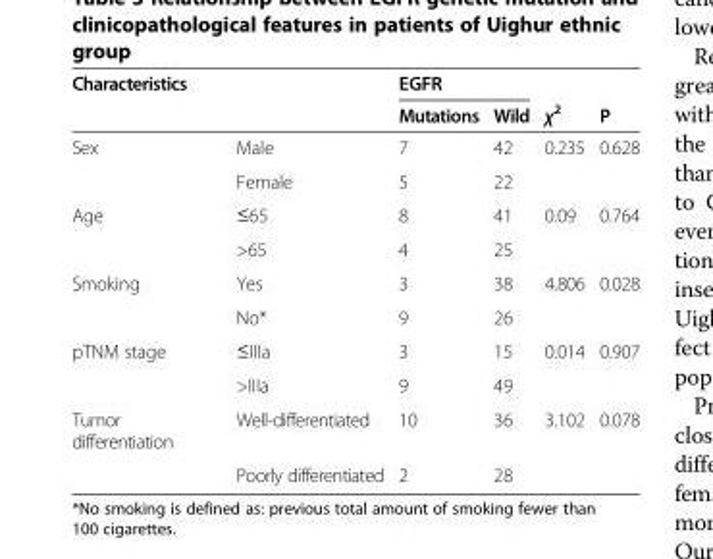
<table><thead><tr><td rowspan="2">Characteristics</td><td rowspan="2"></td><td colspan="2">EGFR</td><td rowspan="2">χ<sup>2</sup></td><td rowspan="2">P</td></tr><tr><td>Mutations</td><td>Wild</td></tr></thead><tbody><tr><td rowspan="2">Sex</td><td>Male</td><td>7</td><td>42</td><td rowspan="2">0.235</td><td>0.628</td></tr><tr><td>Female</td><td>5</td><td>22</td><td></td></tr><tr><td rowspan="2">Age</td><td>≤65</td><td>8</td><td>41</td><td rowspan="2">0.09</td><td>0.764</td></tr><tr><td>&gt;65</td><td>4</td><td>25</td><td></td></tr><tr><td rowspan="2">Smoking</td><td>Yes</td><td>3</td><td>38</td><td rowspan="2">4.806</td><td>0.028</td></tr><tr><td>No*</td><td>9</td><td>26</td><td></td></tr><tr><td rowspan="2">pTNM stage</td><td>≤IIIa</td><td>3</td><td>15</td><td rowspan="2">0.014</td><td>0.907</td></tr><tr><td>&gt;IIIa</td><td>9</td><td>49</td><td></td></tr><tr><td rowspan="2">Tumor differentiation</td><td>Well-differentiated</td><td>10</td><td>36</td><td rowspan="2">3.102</td><td rowspan="2">0.078</td></tr><tr><td>Poorly differentiated</td><td>2</td><td>28</td></tr></tbody></table>